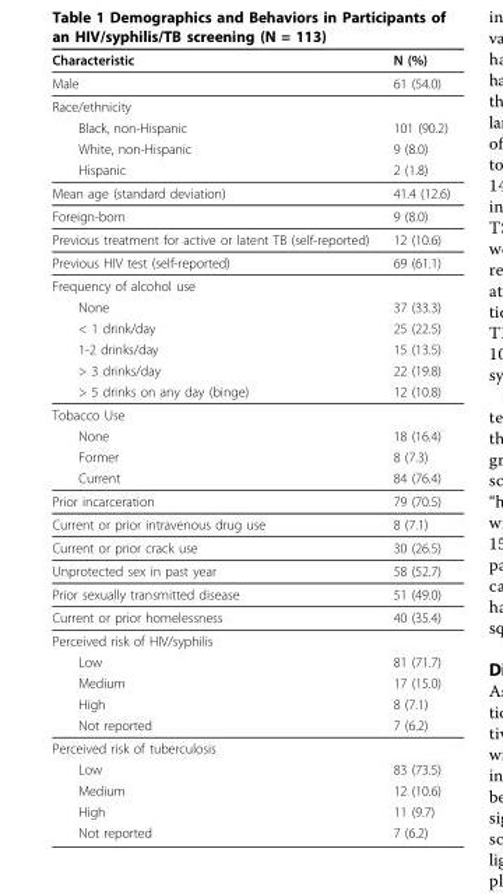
<table><thead><tr><td>Characteristic</td><td>N (%)</td></tr></thead><tbody><tr><td>Male</td><td>61 (54.0)</td></tr><tr><td colspan="2">Race/ethnicity</td></tr><tr><td>Black, non-Hispanic</td><td>101 (90.2)</td></tr><tr><td>White, non-Hispanic</td><td>9 (8.0)</td></tr><tr><td>Hispanic</td><td>2 (1.8)</td></tr><tr><td>Mean age (standard deviation)</td><td>41.4 (12.6)</td></tr><tr><td>Foreign-born</td><td>9 (8.0)</td></tr><tr><td>Previous treatment for active or latent TB (self-reported)</td><td>12 (10.6)</td></tr><tr><td>Previous HIV test (self-reported)</td><td>69 (61.1)</td></tr><tr><td colspan="2">Frequency of alcohol use</td></tr><tr><td>None</td><td>37 (33.3)</td></tr><tr><td>&lt; 1 drink/day</td><td>25 (22.5)</td></tr><tr><td>1-2 drinks/day</td><td>15 (13.5)</td></tr><tr><td>&gt; 3 drinks/day</td><td>22 (19.8)</td></tr><tr><td>&gt; 5 drinks on any day (binge)</td><td>12 (10.8)</td></tr><tr><td colspan="2">Tobacco Use</td></tr><tr><td>None</td><td>18 (16.4)</td></tr><tr><td>Former</td><td>8 (7.3)</td></tr><tr><td>Current</td><td>84 (76.4)</td></tr><tr><td>Prior incarceration</td><td>79 (70.5)</td></tr><tr><td>Current or prior intravenous drug use</td><td>8 (7.1)</td></tr><tr><td>Current or prior crack use</td><td>30 (26.5)</td></tr><tr><td>Unprotected sex in past year</td><td>58 (52.7)</td></tr><tr><td>Prior sexually transmitted disease</td><td>51 (49.0)</td></tr><tr><td>Current or prior homelessness</td><td>40 (35.4)</td></tr><tr><td colspan="2">Perceived risk of HIV/syphilis</td></tr><tr><td>Low</td><td>81 (71.7)</td></tr><tr><td>Medium</td><td>17 (15.0)</td></tr><tr><td>High</td><td>8 (7.1)</td></tr><tr><td>Not reported</td><td>7 (6.2)</td></tr><tr><td colspan="2">Perceived risk of tuberculosis</td></tr><tr><td>Low</td><td>83 (73.5)</td></tr><tr><td>Medium</td><td>12 (10.6)</td></tr><tr><td>High</td><td>11 (9.7)</td></tr><tr><td>Not reported</td><td>7 (6.2)</td></tr></tbody></table>